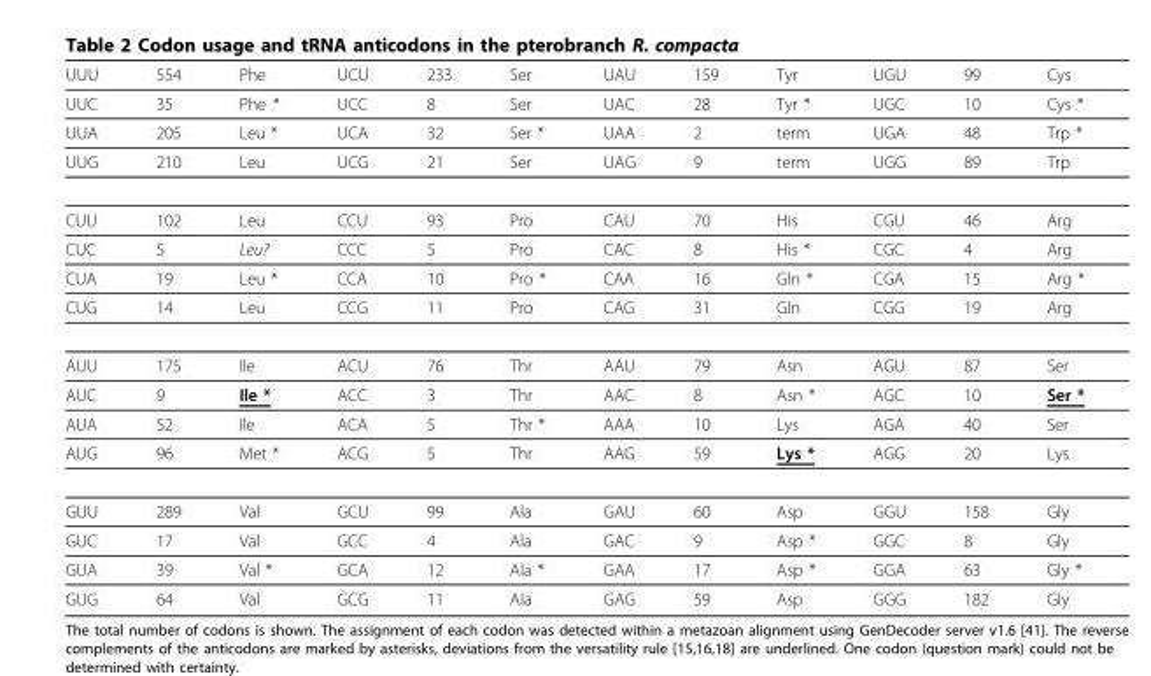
<table><thead><tr><td>UUU</td><td>554</td><td>Phe</td><td>UCU</td><td>233</td><td>Ser</td><td>UAU</td><td>159</td><td>Tyr</td><td>UGU</td><td>99</td><td>Cys</td></tr></thead><tbody><tr><td>UUC</td><td>35</td><td>Phe *</td><td>UCC</td><td>8</td><td>Ser</td><td>UAC</td><td>28</td><td>Tyr *</td><td>UGC</td><td>10</td><td>Cys *</td></tr><tr><td>UUA</td><td>205</td><td>Leu *</td><td>UCA</td><td>32</td><td>Ser *</td><td>UAA</td><td>2</td><td>term</td><td>UGA</td><td>48</td><td>Trp *</td></tr><tr><td>UUG</td><td>210</td><td>Leu</td><td>UCG</td><td>21</td><td>Ser</td><td>UAG</td><td>9</td><td>term</td><td>UGG</td><td>89</td><td>Trp</td></tr><tr><td>CUU</td><td>102</td><td>Leu</td><td>CCU</td><td>93</td><td>Pro</td><td>CAU</td><td>70</td><td>His</td><td>CGU</td><td>46</td><td>Arg</td></tr><tr><td>CUC</td><td>5</td><td>Leu?</td><td>CCC</td><td>5</td><td>Pro</td><td>CAC</td><td>8</td><td>His *</td><td>CGC</td><td>4</td><td>Arg</td></tr><tr><td>CUA</td><td>19</td><td>Leu *</td><td>CCA</td><td>10</td><td>Pro *</td><td>CAA</td><td>16</td><td>Gln *</td><td>CGA</td><td>15</td><td>Arg *</td></tr><tr><td>CUG</td><td>14</td><td>Leu</td><td>CCG</td><td>11</td><td>Pro</td><td>CAG</td><td>31</td><td>Gln</td><td>CGG</td><td>19</td><td>Arg</td></tr><tr><td>AUU</td><td>175</td><td>Ile</td><td>ACU</td><td>76</td><td>Thr</td><td>AAU</td><td>79</td><td>Asn</td><td>AGU</td><td>87</td><td>Ser</td></tr><tr><td>AUC</td><td>9</td><td>Ile *</td><td>ACC</td><td>3</td><td>Thr</td><td>AAC</td><td>8</td><td>Asn *</td><td>AGC</td><td>10</td><td>Ser *</td></tr><tr><td>AUA</td><td>52</td><td>Ile</td><td>ACA</td><td>5</td><td>Thr *</td><td>AAA</td><td>10</td><td>Lys</td><td>AGA</td><td>40</td><td>Ser</td></tr><tr><td>AUG</td><td>96</td><td>Met *</td><td>ACG</td><td>5</td><td>Thr</td><td>AAG</td><td>59</td><td>Lys *</td><td>AGG</td><td>20</td><td>Lys</td></tr><tr><td>GUU</td><td>289</td><td>Val</td><td>GCU</td><td>99</td><td>Ala</td><td>GAU</td><td>60</td><td>Asp</td><td>GGU</td><td>158</td><td>Gly</td></tr><tr><td>GUC</td><td>17</td><td>Val</td><td>GCC</td><td>4</td><td>Ala</td><td>GAC</td><td>9</td><td>Asp *</td><td>GGC</td><td>8</td><td>Gly</td></tr><tr><td>GUA</td><td>39</td><td>Val *</td><td>GCA</td><td>12</td><td>Ala *</td><td>GAA</td><td>17</td><td>Asp *</td><td>GGA</td><td>63</td><td>Gly *</td></tr><tr><td>GUG</td><td>64</td><td>Val</td><td>GCG</td><td>11</td><td>Ala</td><td>GAG</td><td>59</td><td>Asp</td><td>GGG</td><td>182</td><td>Gly</td></tr></tbody></table>